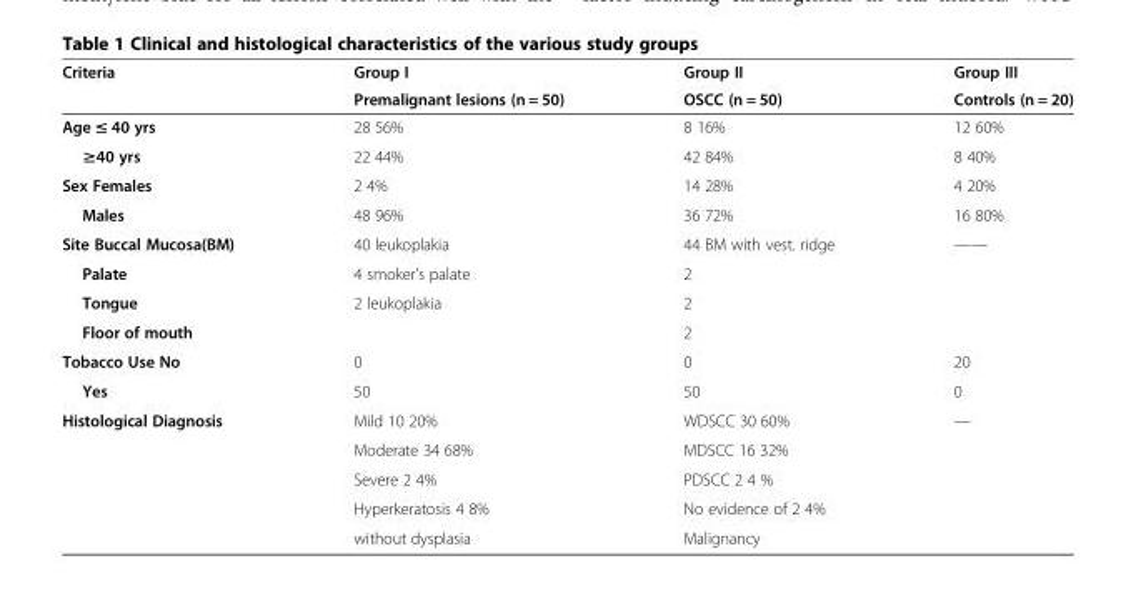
<table><thead><tr><td rowspan="2">Criteria</td><td rowspan="2">Group I Premalignant lesions (n = 50)</td><td rowspan="2">Group II OSCC (n = 50)</td><td rowspan="2">Group III Controls (n = 20)</td></tr><tr></tr></thead><tbody><tr><td>Age ≤ 40 yrs</td><td>28 56%</td><td>8 16%</td><td>12 60%</td></tr><tr><td>≥40 yrs</td><td>22 44%</td><td>42 84%</td><td>8 40%</td></tr><tr><td>Sex Females</td><td>2 4%</td><td>14 28%</td><td>4 20%</td></tr><tr><td>Males</td><td>48 96%</td><td>36 72%</td><td>16 80%</td></tr><tr><td>Site Buccal Mucosa(BM)</td><td>40 leukoplakia</td><td>44 BM with vest. ridge</td><td rowspan="4">——</td></tr><tr><td>Palate</td><td>4 smoker’s palate</td><td>2</td></tr><tr><td>Tongue</td><td>2 leukoplakia</td><td>2</td></tr><tr><td>Floor of mouth</td><td></td><td>2</td></tr><tr><td>Tobacco Use No</td><td>0</td><td>0</td><td>20</td></tr><tr><td>Yes</td><td>50</td><td>50</td><td>0</td></tr><tr><td rowspan="5">Histological Diagnosis</td><td>Mild 10 20%</td><td>WDSCC 30 60%</td><td rowspan="5">—</td></tr><tr><td>Moderate 34 68%</td><td>MDSCC 16 32%</td></tr><tr><td>Severe 2 4%</td><td>PDSCC 2 4 %</td></tr><tr><td>Hyperkeratosis 4 8%</td><td>No evidence of 2 4%</td></tr><tr><td>without dysplasia</td><td>Malignancy</td></tr></tbody></table>